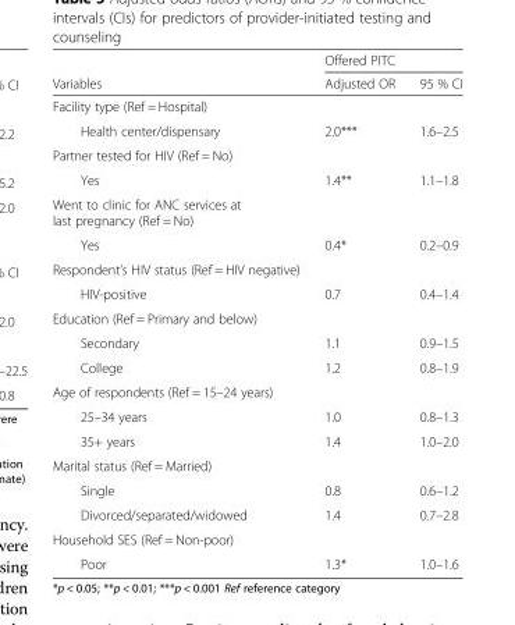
<table><thead><tr><td rowspan="2">Variables</td><td colspan="2">Offered PITC</td></tr><tr><td>Adjusted OR</td><td>95 % CI</td></tr></thead><tbody><tr><td colspan="3">Facility type (Ref = Hospital)</td></tr><tr><td>Health center/dispensary</td><td>2.0***</td><td>1.6–2.5</td></tr><tr><td colspan="3">Partner tested for HIV (Ref = No)</td></tr><tr><td>Yes</td><td>1.4**</td><td>1.1–1.8</td></tr><tr><td colspan="3">Went to clinic for ANC services at last pregnancy (Ref = No)</td></tr><tr><td>Yes</td><td>0.4*</td><td>0.2–0.9</td></tr><tr><td colspan="3">Respondent’s HIV status (Ref = HIV negative)</td></tr><tr><td>HIV-positive</td><td>0.7</td><td>0.4–1.4</td></tr><tr><td colspan="3">Education (Ref = Primary and below)</td></tr><tr><td>Secondary</td><td>1.1</td><td>0.9–1.5</td></tr><tr><td>College</td><td>1.2</td><td>0.8–1.9</td></tr><tr><td colspan="3">Age of respondents (Ref = 15–24 years)</td></tr><tr><td>25–34 years</td><td>1.0</td><td>0.8–1.3</td></tr><tr><td>35+ years</td><td>1.4</td><td>1.0–2.0</td></tr><tr><td colspan="3">Marital status (Ref = Married)</td></tr><tr><td>Single</td><td>0.8</td><td>0.6–1.2</td></tr><tr><td>Divorced/separated/widowed</td><td>1.4</td><td>0.7–2.8</td></tr><tr><td colspan="3">Household SES (Ref = Non-poor)</td></tr><tr><td>Poor</td><td>1.3*</td><td>1.0–1.6</td></tr></tbody></table>